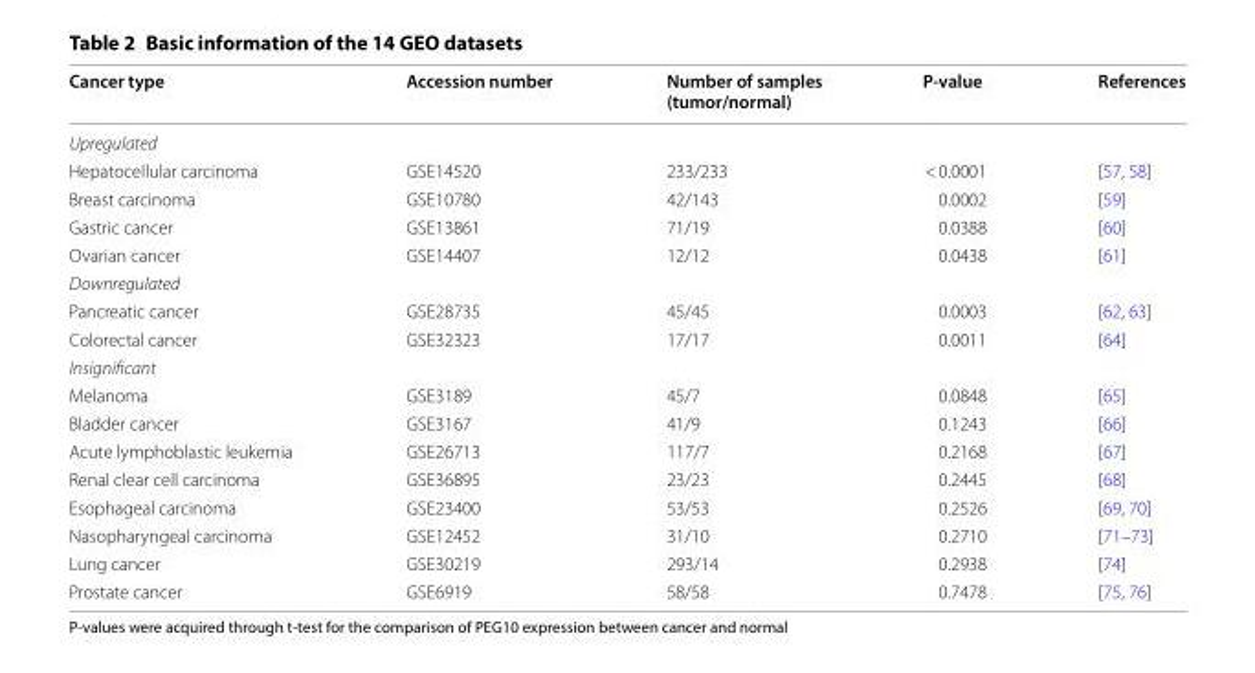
<table><thead><tr><td>Cancer type</td><td>Accession number</td><td>Number of samples (tumor/normal)</td><td>P-value</td><td>References</td></tr></thead><tbody><tr><td colspan="5">Upregulated</td></tr><tr><td>Hepatocellular carcinoma</td><td>GSE14520</td><td>233/233</td><td>&lt; 0.0001</td><td>[57, 58]</td></tr><tr><td>Breast carcinoma</td><td>GSE10780</td><td>42/143</td><td>0.0002</td><td>[59]</td></tr><tr><td>Gastric cancer</td><td>GSE13861</td><td>71/19</td><td>0.0388</td><td>[60]</td></tr><tr><td>Ovarian cancer</td><td>GSE14407</td><td>12/12</td><td>0.0438</td><td>[61]</td></tr><tr><td colspan="5">Downregulated</td></tr><tr><td>Pancreatic cancer</td><td>GSE28735</td><td>45/45</td><td>0.0003</td><td>[62, 63]</td></tr><tr><td>Colorectal cancer</td><td>GSE32323</td><td>17/17</td><td>0.0011</td><td>[64]</td></tr><tr><td colspan="5">Insignificant</td></tr><tr><td>Melanoma</td><td>GSE3189</td><td>45/7</td><td>0.0848</td><td>[65]</td></tr><tr><td>Bladder cancer</td><td>GSE3167</td><td>41/9</td><td>0.1243</td><td>[66]</td></tr><tr><td>Acute lymphoblastic leukemia</td><td>GSE26713</td><td>117/7</td><td>0.2168</td><td>[67]</td></tr><tr><td>Renal clear cell carcinoma</td><td>GSE36895</td><td>23/23</td><td>0.2445</td><td>[68]</td></tr><tr><td>Esophageal carcinoma</td><td>GSE23400</td><td>53/53</td><td>0.2526</td><td>[69, 70]</td></tr><tr><td>Nasopharyngeal carcinoma</td><td>GSE12452</td><td>31/10</td><td>0.2710</td><td>[71–73]</td></tr><tr><td>Lung cancer</td><td>GSE30219</td><td>293/14</td><td>0.2938</td><td>[74]</td></tr><tr><td>Prostate cancer</td><td>GSE6919</td><td>58/58</td><td>0.7478</td><td>[75, 76]</td></tr></tbody></table>